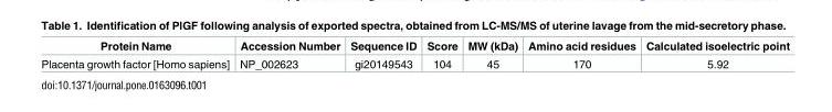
<table><thead><tr><td>Protein Name</td><td>Accession Number</td><td>Sequence ID</td><td>Score</td><td>MW (kDa)</td><td>Amino acid residues</td><td>Calculated isoelectric point</td></tr></thead><tbody><tr><td>Placenta growth factor [Homo sapiens]</td><td>NP_002623</td><td>gi20149543</td><td>104</td><td>45</td><td>170</td><td>5.92</td></tr></tbody></table>